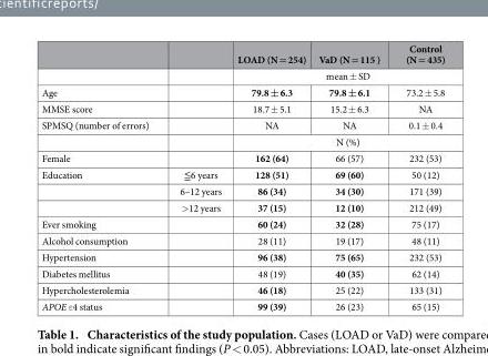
<table><thead><tr><td></td><td></td><td>LOAD (N = 254)</td><td>VaD (N = 115 )</td><td>Control (N = 435)</td></tr></thead><tbody><tr><td></td><td></td><td colspan="3">mean ± SD</td></tr><tr><td>Age</td><td></td><td>79.8 ± 6.3</td><td>79.8 ± 6.1</td><td>73.2 ± 5.8</td></tr><tr><td>MMSE score</td><td></td><td>18.7 ± 5.1</td><td>15.2 ± 6.3</td><td>NA</td></tr><tr><td rowspan="2">SPMSQ (number of errors)</td><td></td><td>NA</td><td>NA</td><td>0.1 ± 0.4</td></tr><tr><td></td><td colspan="3">N (%)</td></tr><tr><td>Female</td><td></td><td>162 (64)</td><td>66 (57)</td><td>232 (53)</td></tr><tr><td rowspan="3">Education</td><td>≦ 6 years</td><td>128 (51)</td><td>69 (60)</td><td>50 (12)</td></tr><tr><td>6–12 years</td><td>86 (34)</td><td>34 (30)</td><td>171 (39)</td></tr><tr><td>&gt; 12 years</td><td>37 (15)</td><td>12 (10)</td><td>212 (49)</td></tr><tr><td>Ever smoking</td><td></td><td>60 (24)</td><td>32 (28)</td><td>75 (17)</td></tr><tr><td>Alcohol consumption</td><td></td><td>28 (11)</td><td>19 (17)</td><td>48 (11)</td></tr><tr><td>Hypertension</td><td></td><td>96 (38)</td><td>75 (65)</td><td>232 (53)</td></tr><tr><td>Diabetes mellitus</td><td></td><td>48 (19)</td><td>40 (35)</td><td>62 (14)</td></tr><tr><td>Hypercholesterolemia</td><td></td><td>46 (18)</td><td>25 (22)</td><td>133 (31)</td></tr><tr><td>APOE ε 4 status</td><td></td><td>99 (39)</td><td>26 (23)</td><td>65 (15)</td></tr></tbody></table>